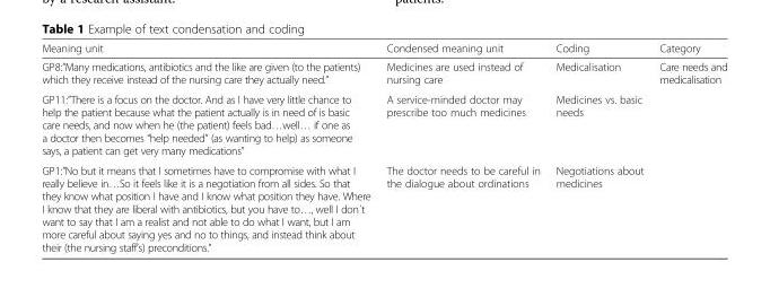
<table><thead><tr><td>Meaning unit</td><td>Condensed meaning unit</td><td>Coding</td><td>Category</td></tr></thead><tbody><tr><td>GP8:”Many medications, antibiotics and the like are given (to the patients) which they receive instead of the nursing care they actually need.”</td><td>Medicines are used instead of nursing care</td><td>Medicalisation</td><td>Care needs and medicalisation</td></tr><tr><td>GP11:”There is a focus on the doctor. And as I have very little chance to help the patient because what the patient actually is in need of is basic care needs, and now when he (the patient) feels bad…well… if one as a doctor then becomes “help needed” (as wanting to help) as someone says, a patient can get very many medications”</td><td>A service-minded doctor may prescribe too much medicines</td><td>Medicines vs. basic needs</td><td></td></tr><tr><td>GP1:”No but it means that I sometimes have to compromise with what I really believe in…So it feels like it is a negotiation from all sides. So that they know what position I have and I know what position they have. Where I know that they are liberal with antibiotics, but you have to…, well I don´t want to say that I am a realist and not able to do what I want, but I am more careful about saying yes and no to things, and instead think about their (the nursing staff’s) preconditions.”</td><td>The doctor needs to be careful in the dialogue about ordinations</td><td>Negotiations about medicines</td><td></td></tr></tbody></table>